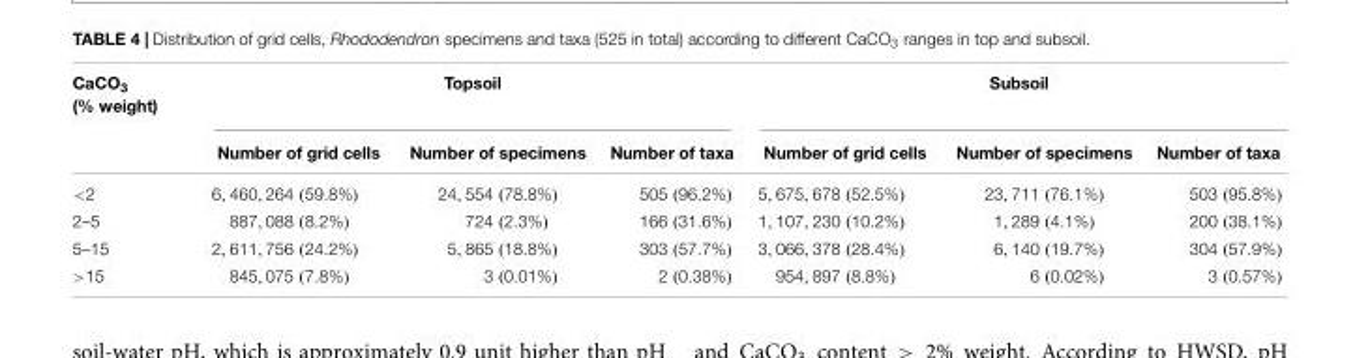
<table><thead><tr><td rowspan="2">CaCO<sub>3</sub> (% weight)</td><td colspan="3">Topsoil</td><td colspan="3">Subsoil</td></tr><tr><td>Number of grid cells</td><td>Number of specimens</td><td>Number of taxa</td><td>Number of grid cells</td><td>Number of specimens</td><td>Number of taxa</td></tr></thead><tbody><tr><td>&lt;2</td><td>6, 460, 264 (59.8%)</td><td>24, 554 (78.8%)</td><td>505 (96.2%)</td><td>5, 675, 678 (52.5%)</td><td>23, 711 (76.1%)</td><td>503 (95.8%)</td></tr><tr><td>2–5</td><td>887, 088 (8.2%)</td><td>724 (2.3%)</td><td>166 (31.6%)</td><td>1, 107, 230 (10.2%)</td><td>1, 289 (4.1%)</td><td>200 (38.1%)</td></tr><tr><td>5–15</td><td>2, 611, 756 (24.2%)</td><td>5, 865 (18.8%)</td><td>303 (57.7%)</td><td>3, 066, 378 (28.4%)</td><td>6, 140 (19.7%)</td><td>304 (57.9%)</td></tr><tr><td>&gt;15</td><td>845, 075 (7.8%)</td><td>3 (0.01%)</td><td>2 (0.38%)</td><td>954, 897 (8.8%)</td><td>6 (0.02%)</td><td>3 (0.57%)</td></tr></tbody></table>